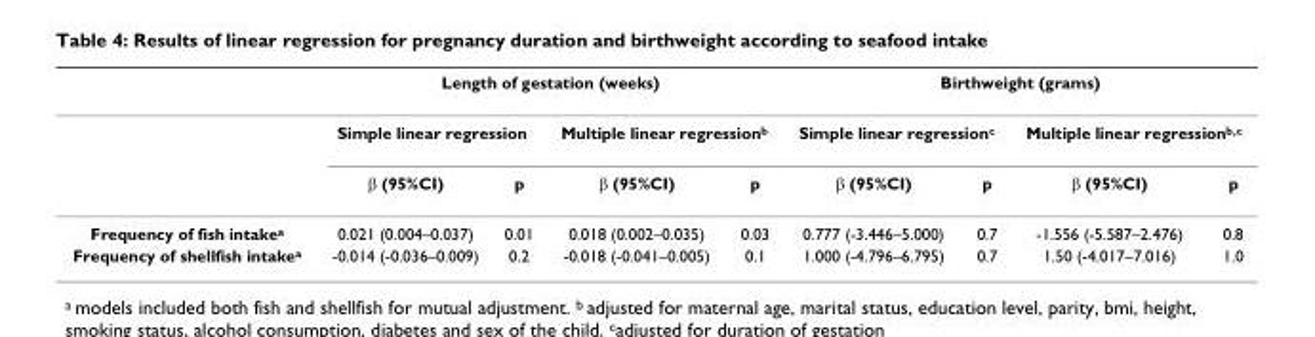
<table><thead><tr><td rowspan="3"></td><td colspan="4">Length of gestation (weeks)</td><td colspan="4">Birthweight (grams)</td></tr><tr><td colspan="2">Simple linear regression</td><td colspan="2">Multiple linear regression<sup>b</sup></td><td colspan="2">Simple linear regression<sup>c</sup></td><td colspan="2">Multiple linear regression<sup>b,c</sup></td></tr><tr><td>β (95%CI)</td><td>p</td><td>β (95%CI)</td><td>p</td><td>β (95%CI)</td><td>p</td><td>β (95%CI)</td><td>p</td></tr></thead><tbody><tr><td>Frequency of fish intake<sup>a</sup></td><td>0.021 (0.004–0.037)</td><td>0.01</td><td>0.018 (0.002–0.035)</td><td>0.03</td><td>0.777 (-3.446–5.000)</td><td>0.7</td><td>-1.556 (-5.587–2.476)</td><td>0.8</td></tr><tr><td>Frequency of shellfish intake<sup>a</sup></td><td>-0.014 (-0.036–0.009)</td><td>0.2</td><td>-0.018 (-0.041–0.005)</td><td>0.1</td><td>1.000 (-4.796–6.795)</td><td>0.7</td><td>1.50 (-4.017–7.016)</td><td>1.0</td></tr></tbody></table>